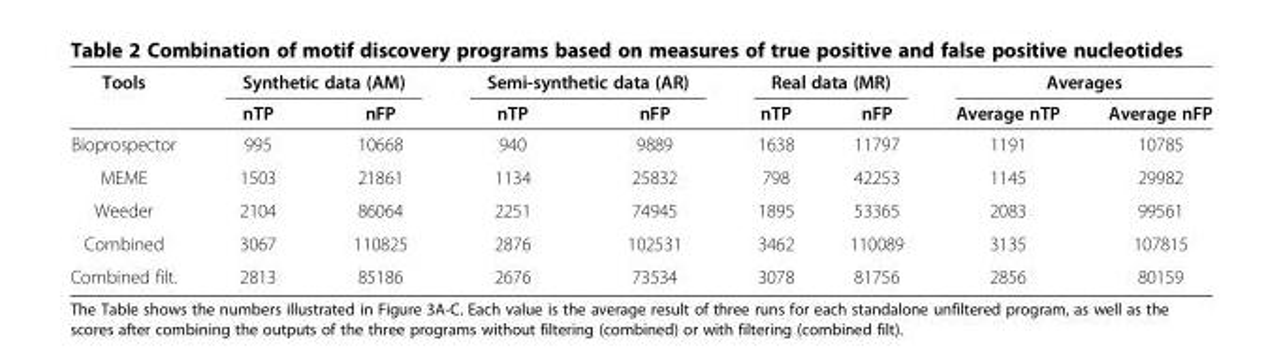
<table><thead><tr><td rowspan="2">Tools</td><td colspan="2">Synthetic data (AM)</td><td colspan="2">Semi-synthetic data (AR)</td><td colspan="2">Real data (MR)</td><td colspan="2">Averages</td></tr><tr><td>nTP</td><td>nFP</td><td>nTP</td><td>nFP</td><td>nTP</td><td>nFP</td><td>Average nTP</td><td>Average nFP</td></tr></thead><tbody><tr><td>Bioprospector</td><td>995</td><td>10668</td><td>940</td><td>9889</td><td>1638</td><td>11797</td><td>1191</td><td>10785</td></tr><tr><td>MEME</td><td>1503</td><td>21861</td><td>1134</td><td>25832</td><td>798</td><td>42253</td><td>1145</td><td>29982</td></tr><tr><td>Weeder</td><td>2104</td><td>86064</td><td>2251</td><td>74945</td><td>1895</td><td>53365</td><td>2083</td><td>99561</td></tr><tr><td>Combined</td><td>3067</td><td>110825</td><td>2876</td><td>102531</td><td>3462</td><td>110089</td><td>3135</td><td>107815</td></tr><tr><td>Combined filt.</td><td>2813</td><td>85186</td><td>2676</td><td>73534</td><td>3078</td><td>81756</td><td>2856</td><td>80159</td></tr></tbody></table>